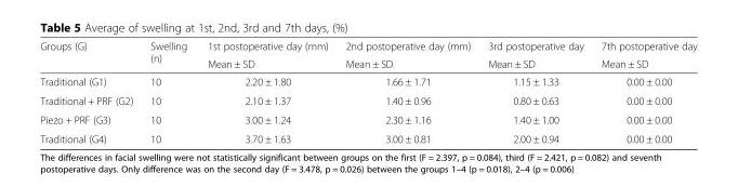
<table><thead><tr><td rowspan="2">Groups (G)</td><td rowspan="2">Swelling (n)</td><td rowspan="2">1st postoperative day (mm) Mean ± SD</td><td rowspan="2">2nd postoperative day (mm) Mean ± SD</td><td rowspan="2">3rd postoperative day Mean ± SD</td><td rowspan="2">7th postoperative day Mean ± SD</td></tr><tr></tr></thead><tbody><tr><td>Traditional (G1)</td><td>10</td><td>2.20 ± 1.80</td><td>1.66 ± 1.71</td><td>1.15 ± 1.33</td><td>0.00 ± 0.00</td></tr><tr><td>Traditional + PRF (G2)</td><td>10</td><td>2.10 ± 1.37</td><td>1.40 ± 0.96</td><td>0.80 ± 0.63</td><td>0.00 ± 0.00</td></tr><tr><td>Piezo + PRF (G3)</td><td>10</td><td>3.00 ± 1.24</td><td>2.30 ± 1.16</td><td>1.40 ± 1.00</td><td>0.00 ± 0.00</td></tr><tr><td>Traditional (G4)</td><td>10</td><td>3.70 ± 1.63</td><td>3.00 ± 0.81</td><td>2.00 ± 0.94</td><td>0.00 ± 0.00</td></tr></tbody></table>